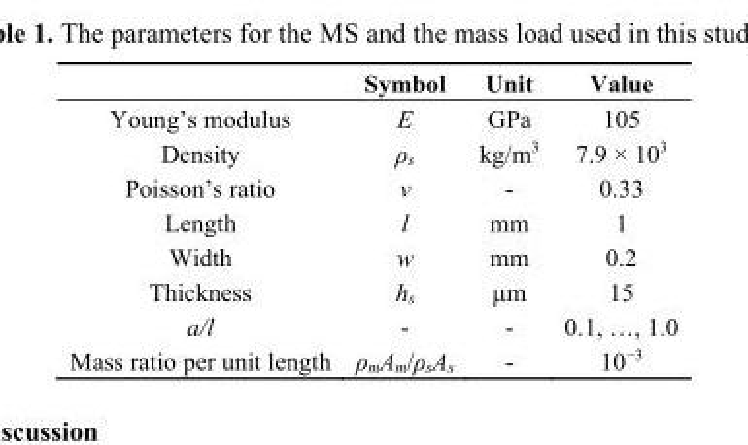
<table><thead><tr><td></td><td>Symbol</td><td>Unit</td><td>Value</td></tr></thead><tbody><tr><td>Young’s modulus</td><td>E</td><td>GPa</td><td>105</td></tr><tr><td>Density</td><td>ρ<sub>s</sub></td><td>kg/m<sup>3</sup></td><td>7.9 × 10<sup>3</sup></td></tr><tr><td>Poisson’s ratio</td><td>ν</td><td>-</td><td>0.33</td></tr><tr><td>Length</td><td>l</td><td>mm</td><td>1</td></tr><tr><td>Width</td><td>w</td><td>mm</td><td>0.2</td></tr><tr><td>Thickness</td><td>h<sub>s</sub></td><td>μm</td><td>15</td></tr><tr><td>a/l</td><td>-</td><td>-</td><td>0.1, …, 1.0</td></tr><tr><td>Mass ratio per unit length</td><td>ρ<sub>m</sub>A<sub>m</sub>/ρ<sub>s</sub>A<sub>s</sub></td><td>-</td><td>10<sup>−3</sup></td></tr></tbody></table>